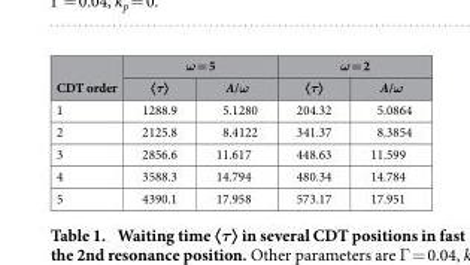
<table><thead><tr><td rowspan="2">CDT order</td><td colspan="2">ω = 5</td><td colspan="2">ω = 2</td></tr><tr><td>〈τ〉</td><td>A/ω</td><td>〈τ〉</td><td>A/ω</td></tr></thead><tbody><tr><td>1</td><td>1288.9</td><td>5.1280</td><td>204.32</td><td>5.0864</td></tr><tr><td>2</td><td>2125.8</td><td>8.4122</td><td>341.37</td><td>8.3854</td></tr><tr><td>3</td><td>2856.6</td><td>11.617</td><td>448.63</td><td>11.599</td></tr><tr><td>4</td><td>3588.3</td><td>14.794</td><td>480.34</td><td>14.784</td></tr><tr><td>5</td><td>4390.1</td><td>17.958</td><td>573.17</td><td>17.951</td></tr></tbody></table>